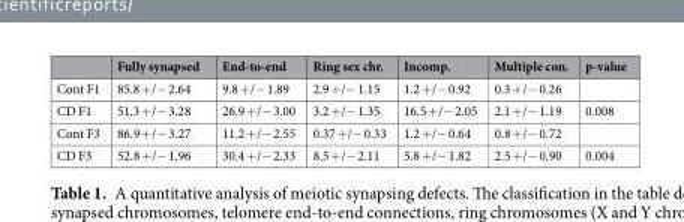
<table><thead><tr><td></td><td>Fully synapsed</td><td>End-to-end</td><td>Ring sex chr.</td><td>Incomp.</td><td>Multiple con.</td><td>p-value</td></tr></thead><tbody><tr><td>Cont F1</td><td>85.8 +/− 2.64</td><td>9.8 +/− 1.89</td><td>2.9 +/− 1.15</td><td>1.2 +/− 0.92</td><td>0.3 +/− 0.26</td><td></td></tr><tr><td>CD F1</td><td>51.3 +/− 3.28</td><td>26.9 +/− 3.00</td><td>3.2 +/− 1.35</td><td>16.5 +/− 2.05</td><td>2.1 +/− 1.19</td><td>0.008</td></tr><tr><td>Cont F3</td><td>86.9 +/− 3.27</td><td>11.2 +/− 2.55</td><td>0.37 +/− 0.33</td><td>1.2 +/− 0.64</td><td>0.8 +/− 0.72</td><td></td></tr><tr><td>CD F3</td><td>52.8 +/− 1.96</td><td>30.4 +/− 2.33</td><td>8.5 +/− 2.11</td><td>5.8 +/− 1.82</td><td>2.5 +/− 0.90</td><td>0.004</td></tr></tbody></table>